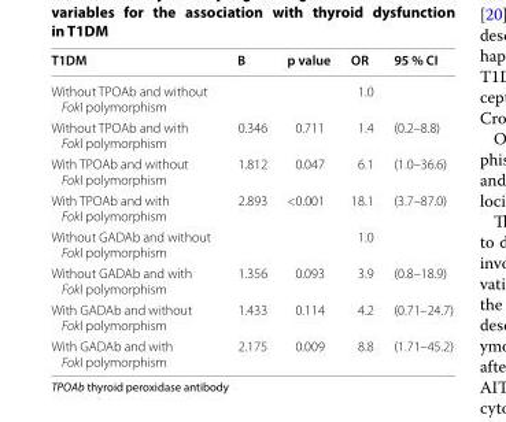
<table><thead><tr><td>T1DM</td><td>B</td><td>p value</td><td>OR</td><td>95 % CI</td></tr></thead><tbody><tr><td>Without TPOAb and without FokI polymorphism</td><td></td><td></td><td>1.0</td><td></td></tr><tr><td>Without TPOAb and with FokI polymorphism</td><td>0.346</td><td>0.711</td><td>1.4</td><td>(0.2–8.8)</td></tr><tr><td>With TPOAb and without FokI polymorphism</td><td>1.812</td><td>0.047</td><td>6.1</td><td>(1.0–36.6)</td></tr><tr><td>With TPOAb and with FokI polymorphism</td><td>2.893</td><td>&lt;0.001</td><td>18.1</td><td>(3.7–87.0)</td></tr><tr><td>Without GADAb and without FokI polymorphism</td><td></td><td></td><td>1.0</td><td></td></tr><tr><td>Without GADAb and with FokI polymorphism</td><td>1.356</td><td>0.093</td><td>3.9</td><td>(0.8–18.9)</td></tr><tr><td>With GADAb and without FokI polymorphism</td><td>1.433</td><td>0.114</td><td>4.2</td><td>(0.71–24.7)</td></tr><tr><td>With GADAb and with FokI polymorphism</td><td>2.175</td><td>0.009</td><td>8.8</td><td>(1.71–45.2)</td></tr></tbody></table>